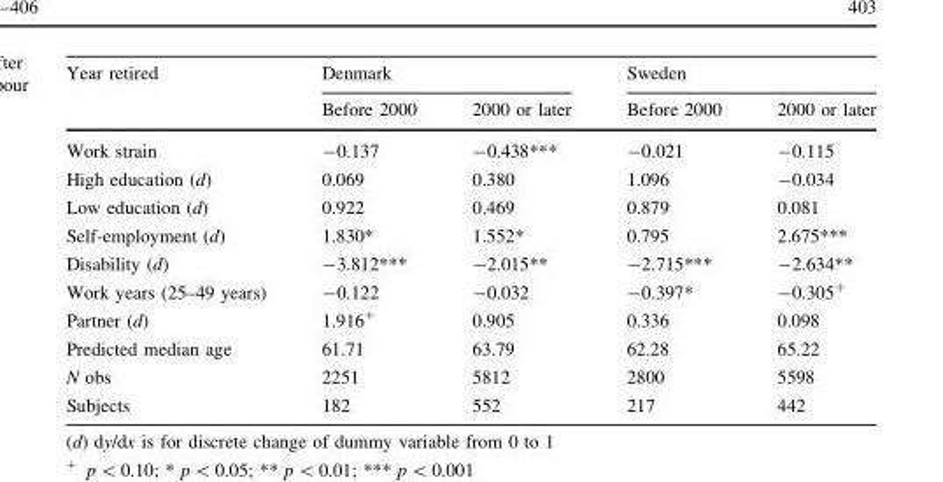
<table><thead><tr><td rowspan="2">Year retired</td><td colspan="2">Denmark</td><td colspan="2">Sweden</td></tr><tr><td>Before 2000</td><td>2000 or later</td><td>Before 2000</td><td>2000 or later</td></tr></thead><tbody><tr><td>Work strain</td><td>-0.137</td><td>-0.438***</td><td>-0.021</td><td>-0.115</td></tr><tr><td>High education (d)</td><td>0.069</td><td>0.380</td><td>1.096</td><td>-0.034</td></tr><tr><td>Low education (d)</td><td>0.922</td><td>0.469</td><td>0.879</td><td>0.081</td></tr><tr><td>Self-employment (d)</td><td>1.830*</td><td>1.552*</td><td>0.795</td><td>2.675***</td></tr><tr><td>Disability (d)</td><td>-3.812***</td><td>-2.015**</td><td>-2.715***</td><td>-2.634**</td></tr><tr><td>Work years (25–49 years)</td><td>-0.122</td><td>-0.032</td><td>-0.397*</td><td>-0.305<sup>+</sup></td></tr><tr><td>Partner (d)</td><td>1.916<sup>+</sup></td><td>0.905</td><td>0.336</td><td>0.098</td></tr><tr><td>Predicted median age</td><td>61.71</td><td>63.79</td><td>62.28</td><td>65.22</td></tr><tr><td>N obs</td><td>2251</td><td>5812</td><td>2800</td><td>5598</td></tr><tr><td>Subjects</td><td>182</td><td>552</td><td>217</td><td>442</td></tr></tbody></table>